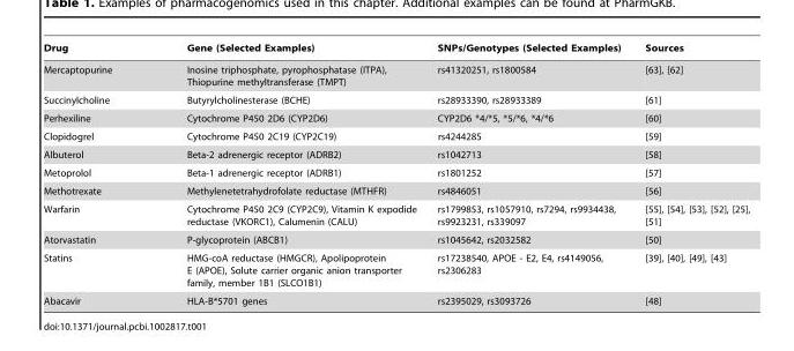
<table><thead><tr><td>Drug</td><td>Gene (Selected Examples)</td><td>SNPs/Genotypes (Selected Examples)</td><td>Sources</td></tr></thead><tbody><tr><td>Mercaptopurine</td><td>Inosine triphosphate, pyrophosphatase (ITPA), Thiopurine methyltransferase (TMPT)</td><td>rs41320251, rs1800584</td><td>[63], [62]</td></tr><tr><td>Succinylcholine</td><td>Butyrylcholinesterase (BCHE)</td><td>rs28933390, rs28933389</td><td>[61]</td></tr><tr><td>Perhexiline</td><td>Cytochrome P450 2D6 (CYP2D6)</td><td>CYP2D6 *4/*5, *5/*6, *4/*6</td><td>[60]</td></tr><tr><td>Clopidogrel</td><td>Cytochrome P450 2C19 (CYP2C19)</td><td>rs4244285</td><td>[59]</td></tr><tr><td>Albuterol</td><td>Beta-2 adrenergic receptor (ADRB2)</td><td>rs1042713</td><td>[58]</td></tr><tr><td>Metoprolol</td><td>Beta-1 adrenergic receptor (ADRB1)</td><td>rs1801252</td><td>[57]</td></tr><tr><td>Methotrexate</td><td>Methylenetetrahydrofolate reductase (MTHFR)</td><td>rs4846051</td><td>[56]</td></tr><tr><td>Warfarin</td><td>Cytochrome P450 2C9 (CYP2C9), Vitamin K expodide reductase (VKORC1), Calumenin (CALU)</td><td>rs1799853, rs1057910, rs7294, rs9934438, rs9923231, rs339097</td><td>[55], [54], [53], [52], [25], [51]</td></tr><tr><td>Atorvastatin</td><td>P-glycoprotein (ABCB1)</td><td>rs1045642, rs2032582</td><td>[50]</td></tr><tr><td>Statins</td><td>HMG-coA reductase (HMGCR), Apolipoprotein E (APOE), Solute carrier organic anion transporter family, member 1B1 (SLCO1B1)</td><td>rs17238540, APOE - E2, E4, rs4149056, rs2306283</td><td>[39], [40], [49], [43]</td></tr><tr><td>Abacavir</td><td>HLA-B*5701 genes</td><td>rs2395029, rs3093726</td><td>[48]</td></tr></tbody></table>